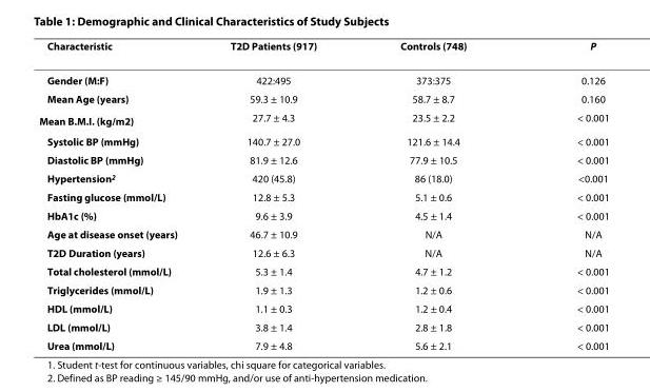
<table><thead><tr><td>Characteristic</td><td>T2D Patients (917)</td><td>Controls (748)</td><td>P</td></tr></thead><tbody><tr><td>Gender (M:F)</td><td>422:495</td><td>373:375</td><td>0.126</td></tr><tr><td>Mean Age (years)</td><td>59.3 ± 10.9</td><td>58.7 ± 8.7</td><td>0.160</td></tr><tr><td>Mean B.M.I. (kg/m<sup>2</sup>)</td><td>27.7 ± 4.3</td><td>23.5 ± 2.2</td><td>&lt; 0.001</td></tr><tr><td>Systolic BP (mmHg)</td><td>140.7 ± 27.0</td><td>121.6 ± 14.4</td><td>&lt; 0.001</td></tr><tr><td>Diastolic BP (mmHg)</td><td>81.9 ± 12.6</td><td>77.9 ± 10.5</td><td>&lt; 0.001</td></tr><tr><td>Hypertension<sup>2</sup></td><td>420 (45.8)</td><td>86 (18.0)</td><td>&lt;0.001</td></tr><tr><td>Fasting glucose (mmol/L)</td><td>12.8 ± 5.3</td><td>5.1 ± 0.6</td><td>&lt; 0.001</td></tr><tr><td>HbA1c (%)</td><td>9.6 ± 3.9</td><td>4.5 ± 1.4</td><td>&lt; 0.001</td></tr><tr><td>Age at disease onset (years)</td><td>46.7 ± 10.9</td><td>N/A</td><td>N/A</td></tr><tr><td>T2D Duration (years)</td><td>12.6 ± 6.3</td><td>N/A</td><td>N/A</td></tr><tr><td>Total cholesterol (mmol/L)</td><td>5.3 ± 1.4</td><td>4.7 ± 1.2</td><td>&lt; 0.001</td></tr><tr><td>Triglycerides (mmol/L)</td><td>1.9 ± 1.3</td><td>1.2 ± 0.6</td><td>&lt; 0.001</td></tr><tr><td>HDL (mmol/L)</td><td>1.1 ± 0.3</td><td>1.2 ± 0.4</td><td>&lt; 0.001</td></tr><tr><td>LDL (mmol/L)</td><td>3.8 ± 1.4</td><td>2.8 ± 1.8</td><td>&lt; 0.001</td></tr><tr><td>Urea (mmol/L)</td><td>7.9 ± 4.8</td><td>5.6 ± 2.1</td><td>&lt; 0.001</td></tr></tbody></table>